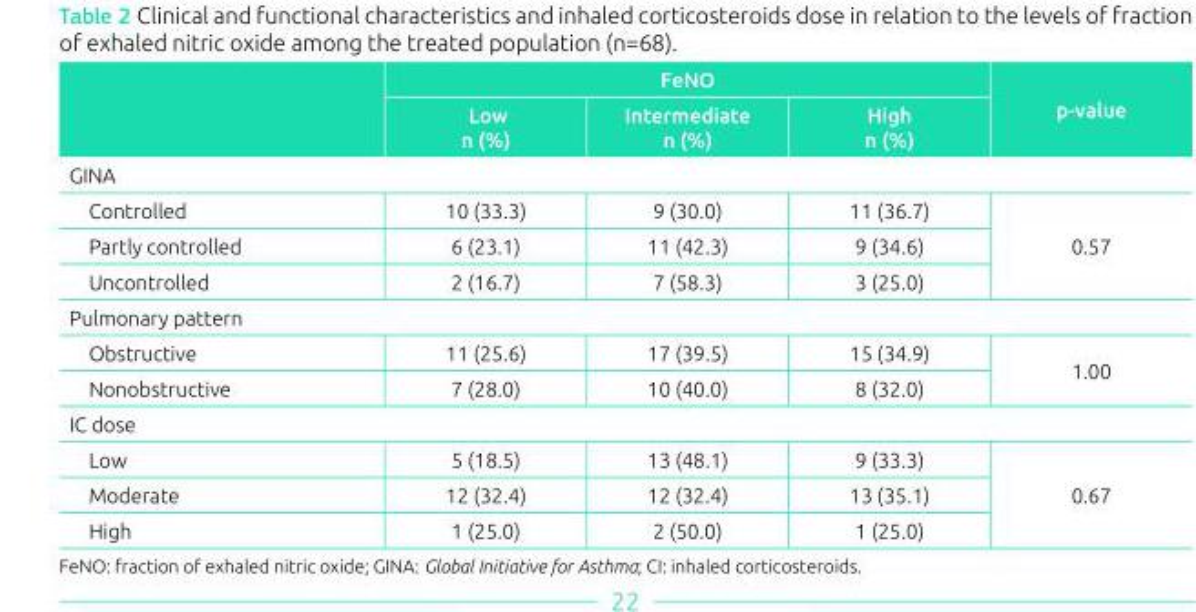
<table><thead><tr><td rowspan="2"></td><td colspan="3">FeNO</td><td rowspan="2">p-value</td></tr><tr><td>Low n (%)</td><td>Intermediate n (%)</td><td>High n (%)</td></tr></thead><tbody><tr><td colspan="5">GINA</td></tr><tr><td>Controlled</td><td>10 (33.3)</td><td>9 (30.0)</td><td>11 (36.7)</td><td rowspan="3">0.57</td></tr><tr><td>Partly controlled</td><td>6 (23.1)</td><td>11 (42.3)</td><td>9 (34.6)</td></tr><tr><td>Uncontrolled</td><td>2 (16.7)</td><td>7 (58.3)</td><td>3 (25.0)</td></tr><tr><td colspan="5">Pulmonary pattern</td></tr><tr><td>Obstructive</td><td>11 (25.6)</td><td>17 (39.5)</td><td>15 (34.9)</td><td rowspan="2">1.00</td></tr><tr><td>Nonobstructive</td><td>7 (28.0)</td><td>10 (40.0)</td><td>8 (32.0)</td></tr><tr><td colspan="5">IC dose</td></tr><tr><td>Low</td><td>5 (18.5)</td><td>13 (48.1)</td><td>9 (33.3)</td><td rowspan="3">0.67</td></tr><tr><td>Moderate</td><td>12 (32.4)</td><td>12 (32.4)</td><td>13 (35.1)</td></tr><tr><td>High</td><td>1 (25.0)</td><td>2 (50.0)</td><td>1 (25.0)</td></tr></tbody></table>